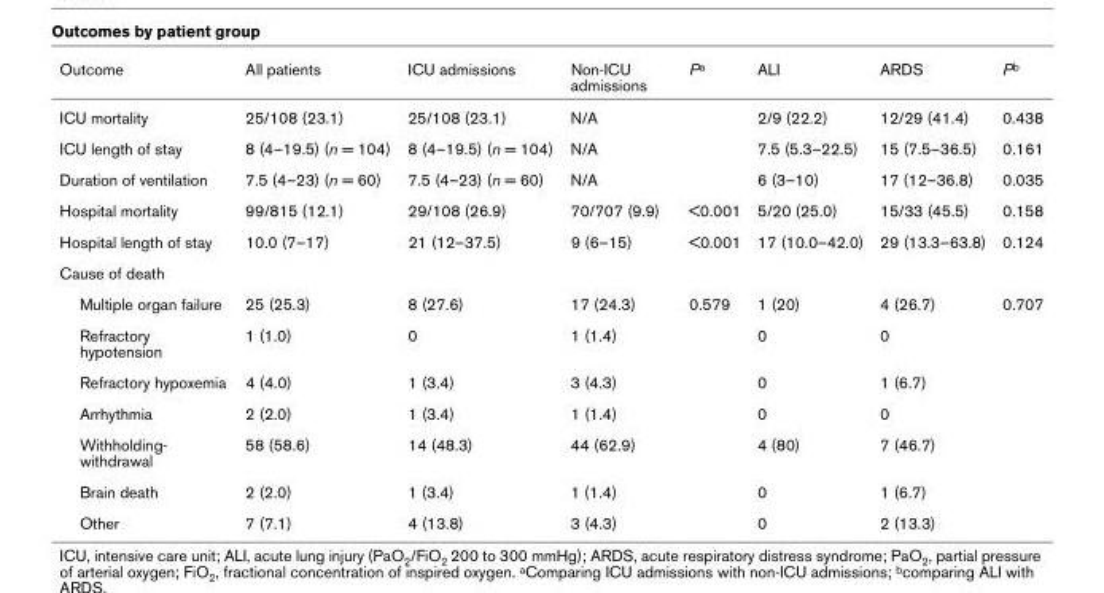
<table><thead><tr><td>Outcome</td><td>All patients</td><td>ICU admissions</td><td>Non-ICU admissions</td><td>P<sup>a</sup></td><td>ALI</td><td>ARDS</td><td>P<sup>b</sup></td></tr></thead><tbody><tr><td>ICU mortality</td><td>25/108 (23.1)</td><td>25/108 (23.1)</td><td>N/A</td><td></td><td>2/9 (22.2)</td><td>12/29 (41.4)</td><td>0.438</td></tr><tr><td>ICU length of stay</td><td>8 (4–19.5) (n = 104)</td><td>8 (4–19.5) (n = 104)</td><td>N/A</td><td></td><td>7.5 (5.3–22.5)</td><td>15 (7.5–36.5)</td><td>0.161</td></tr><tr><td>Duration of ventilation</td><td>7.5 (4–23) (n = 60)</td><td>7.5 (4–23) (n = 60)</td><td>N/A</td><td></td><td>6 (3–10)</td><td>17 (12–36.8)</td><td>0.035</td></tr><tr><td>Hospital mortality</td><td>99/815 (12.1)</td><td>29/108 (26.9)</td><td>70/707 (9.9)</td><td>&lt;0.001</td><td>5/20 (25.0)</td><td>15/33 (45.5)</td><td>0.158</td></tr><tr><td>Hospital length of stay</td><td>10.0 (7–17)</td><td>21 (12–37.5)</td><td>9 (6–15)</td><td>&lt;0.001</td><td>17 (10.0–42.0)</td><td>29 (13.3–63.8)</td><td>0.124</td></tr><tr><td colspan="8">Cause of death</td></tr><tr><td>Multiple organ failure</td><td>25 (25.3)</td><td>8 (27.6)</td><td>17 (24.3)</td><td>0.579</td><td>1 (20)</td><td>4 (26.7)</td><td>0.707</td></tr><tr><td>Refractory hypotension</td><td>1 (1.0)</td><td>0</td><td>1 (1.4)</td><td></td><td>0</td><td>0</td><td></td></tr><tr><td>Refractory hypoxemia</td><td>4 (4.0)</td><td>1 (3.4)</td><td>3 (4.3)</td><td></td><td>0</td><td>1 (6.7)</td><td></td></tr><tr><td>Arrhythmia</td><td>2 (2.0)</td><td>1 (3.4)</td><td>1 (1.4)</td><td></td><td>0</td><td>0</td><td></td></tr><tr><td>Withholding- withdrawal</td><td>58 (58.6)</td><td>14 (48.3)</td><td>44 (62.9)</td><td></td><td>4 (80)</td><td>7 (46.7)</td><td></td></tr><tr><td>Brain death</td><td>2 (2.0)</td><td>1 (3.4)</td><td>1 (1.4)</td><td></td><td>0</td><td>1 (6.7)</td><td></td></tr><tr><td>Other</td><td>7 (7.1)</td><td>4 (13.8)</td><td>3 (4.3)</td><td></td><td>0</td><td>2 (13.3)</td><td></td></tr></tbody></table>